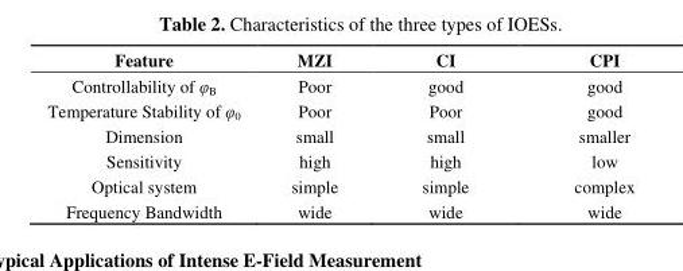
<table><thead><tr><td>Feature</td><td>MZI</td><td>CI</td><td>CPI</td></tr></thead><tbody><tr><td>Controllability of φ<sub>B</sub></td><td>Poor</td><td>good</td><td>good</td></tr><tr><td>Temperature Stability of φ<sub>0</sub></td><td>Poor</td><td>Poor</td><td>good</td></tr><tr><td>Dimension</td><td>small</td><td>small</td><td>smaller</td></tr><tr><td>Sensitivity</td><td>high</td><td>high</td><td>low</td></tr><tr><td>Optical system</td><td>simple</td><td>simple</td><td>complex</td></tr><tr><td>Frequency Bandwidth</td><td>wide</td><td>wide</td><td>wide</td></tr></tbody></table>